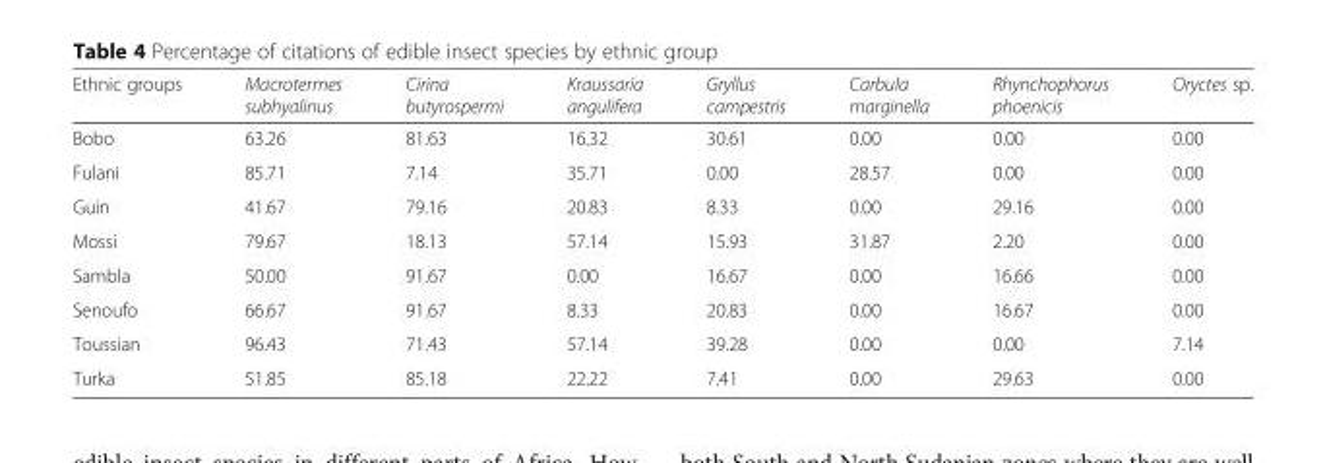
<table><thead><tr><td>Ethnic groups</td><td>Macrotermes subhyalinus</td><td>Cirina butyrospermi</td><td>Kraussaria angulifera</td><td>Gryllus campestris</td><td>Carbula marginella</td><td>Rhynchophorus phoenicis</td><td>Oryctes sp.</td></tr></thead><tbody><tr><td>Bobo</td><td>63.26</td><td>81.63</td><td>16.32</td><td>30.61</td><td>0.00</td><td>0.00</td><td>0.00</td></tr><tr><td>Fulani</td><td>85.71</td><td>7.14</td><td>35.71</td><td>0.00</td><td>28.57</td><td>0.00</td><td>0.00</td></tr><tr><td>Guin</td><td>41.67</td><td>79.16</td><td>20.83</td><td>8.33</td><td>0.00</td><td>29.16</td><td>0.00</td></tr><tr><td>Mossi</td><td>79.67</td><td>18.13</td><td>57.14</td><td>15.93</td><td>31.87</td><td>2.20</td><td>0.00</td></tr><tr><td>Sambla</td><td>50.00</td><td>91.67</td><td>0.00</td><td>16.67</td><td>0.00</td><td>16.66</td><td>0.00</td></tr><tr><td>Senoufo</td><td>66.67</td><td>91.67</td><td>8.33</td><td>20.83</td><td>0.00</td><td>16.67</td><td>0.00</td></tr><tr><td>Toussian</td><td>96.43</td><td>71.43</td><td>57.14</td><td>39.28</td><td>0.00</td><td>0.00</td><td>7.14</td></tr><tr><td>Turka</td><td>51.85</td><td>85.18</td><td>22.22</td><td>7.41</td><td>0.00</td><td>29.63</td><td>0.00</td></tr></tbody></table>